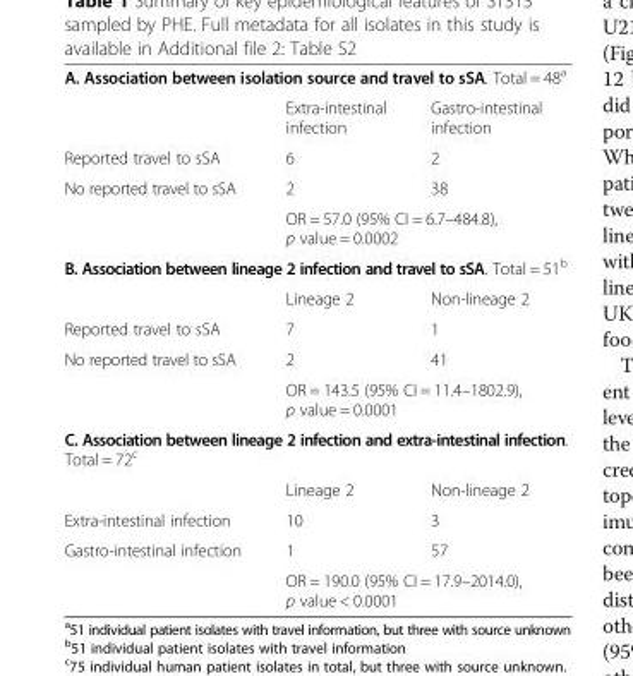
<table><tbody><tr><td colspan="3">A. Association between isolation source and travel to sSA. Total = 48<sup>a</sup></td></tr><tr><td></td><td>Extra-intestinal infection</td><td>Gastro-intestinal infection</td></tr><tr><td>Reported travel to sSA</td><td>6</td><td>2</td></tr><tr><td rowspan="2">No reported travel to sSA</td><td>2</td><td>38</td></tr><tr><td colspan="2">OR = 57.0 (95% CI = 6.7–484.8), p value = 0.0002</td></tr><tr><td colspan="3">B. Association between lineage 2 infection and travel to sSA. Total = 51<sup>b</sup></td></tr><tr><td></td><td>Lineage 2</td><td>Non-lineage 2</td></tr><tr><td>Reported travel to sSA</td><td>7</td><td>1</td></tr><tr><td rowspan="2">No reported travel to sSA</td><td>2</td><td>41</td></tr><tr><td colspan="2">OR = 143.5 (95% CI = 11.4–1802.9), p value = 0.0001</td></tr><tr><td colspan="3">C. Association between lineage 2 infection and extra-intestinal infection. Total = 72<sup>c</sup></td></tr><tr><td></td><td>Lineage 2</td><td>Non-lineage 2</td></tr><tr><td>Extra-intestinal infection</td><td>10</td><td>3</td></tr><tr><td rowspan="2">Gastro-intestinal infection</td><td>1</td><td>57</td></tr><tr><td colspan="2">OR = 190.0 (95% CI = 17.9–2014.0), p value &lt; 0.0001</td></tr></tbody></table>